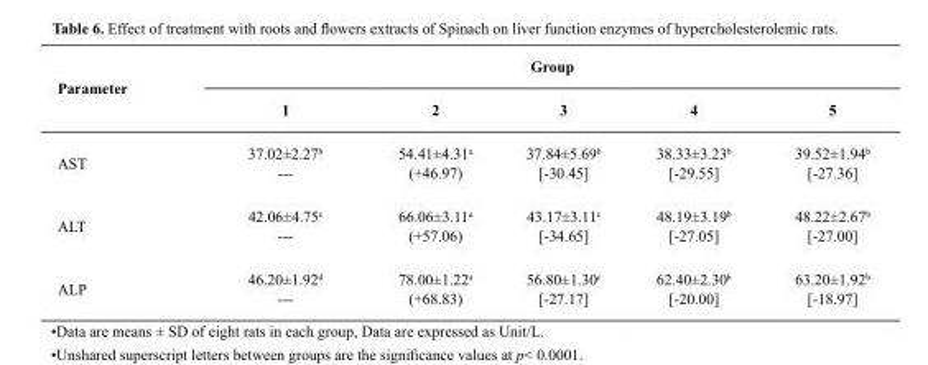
<table><thead><tr><td rowspan="2">Parameter</td><td colspan="5">Group</td></tr><tr><td>1</td><td>2</td><td>3</td><td>4</td><td>5</td></tr></thead><tbody><tr><td>AST</td><td>37.02±2.27<sup>b</sup> ---</td><td>54.41±4.31<sup>a</sup> (+46.97)</td><td>37.84±5.69<sup>b</sup> [-30.45]</td><td>38.33±3.23<sup>b</sup> [-29.55]</td><td>39.52±1.94<sup>b</sup> [-27.36]</td></tr><tr><td>ALT</td><td>42.06±4.75<sup>c</sup> ---</td><td>66.06±3.11<sup>a</sup> (+57.06)</td><td>43.17±3.11<sup>c</sup> [-34.65]</td><td>48.19±3.19<sup>b</sup> [-27.05]</td><td>48.22±2.67<sup>b</sup> [-27.00]</td></tr><tr><td>ALP</td><td>46.20±1.92<sup>d</sup> ---</td><td>78.00±1.22<sup>a</sup> (+68.83)</td><td>56.80±1.30<sup>c</sup> [-27.17]</td><td>62.40±2.30<sup>b</sup> [-20.00]</td><td>63.20±1.92<sup>b</sup> [-18.97]</td></tr></tbody></table>